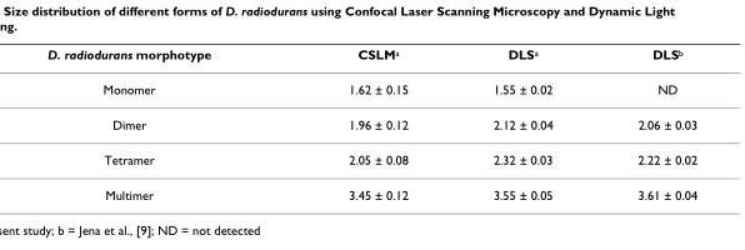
<table><thead><tr><td>D. radiodurans morphotype</td><td>CSLM<sup>a</sup></td><td>DLS<sup>a</sup></td><td>DLS<sup>b</sup></td></tr></thead><tbody><tr><td>Monomer</td><td>1.62 ± 0.15</td><td>1.55 ± 0.02</td><td>ND</td></tr><tr><td>Dimer</td><td>1.96 ± 0.12</td><td>2.12 ± 0.04</td><td>2.06 ± 0.03</td></tr><tr><td>Tetramer</td><td>2.05 ± 0.08</td><td>2.32 ± 0.03</td><td>2.22 ± 0.02</td></tr><tr><td>Multimer</td><td>3.45 ± 0.12</td><td>3.55 ± 0.05</td><td>3.61 ± 0.04</td></tr></tbody></table>